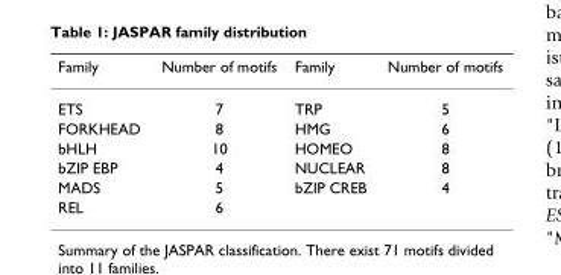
<table><thead><tr><td>Family</td><td>Number of motifs</td><td>Family</td><td>Number of motifs</td></tr></thead><tbody><tr><td>ETS</td><td>7</td><td>TRP</td><td>5</td></tr><tr><td>FORKHEAD</td><td>8</td><td>HMG</td><td>6</td></tr><tr><td>bHLH</td><td>10</td><td>HOMEO</td><td>8</td></tr><tr><td>bZIP EBP</td><td>4</td><td>NUCLEAR</td><td>8</td></tr><tr><td>MADS</td><td>5</td><td>bZIP CREB</td><td>4</td></tr><tr><td>REL</td><td>6</td><td></td><td></td></tr></tbody></table>